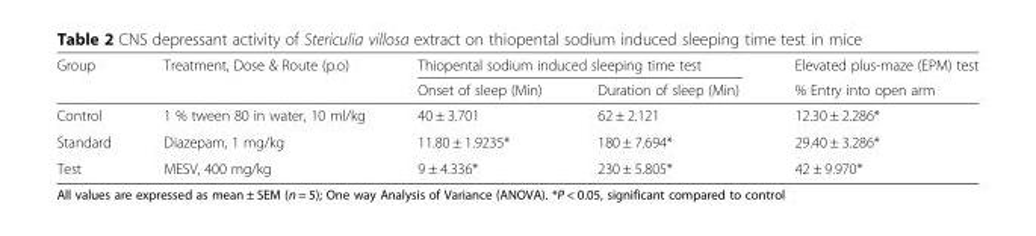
<table><thead><tr><td rowspan="2">Group</td><td rowspan="2">Treatment, Dose &amp; Route (p.o)</td><td colspan="2">Thiopental sodium induced sleeping time test</td><td rowspan="2">Elevated plus-maze (EPM) test % Entry into open arm</td></tr><tr><td>Onset of sleep (Min)</td><td>Duration of sleep (Min)</td></tr></thead><tbody><tr><td>Control</td><td>1 % tween 80 in water, 10 ml/kg</td><td>40 ± 3.701</td><td>62 ± 2.121</td><td>12.30 ± 2.286*</td></tr><tr><td>Standard</td><td>Diazepam, 1 mg/kg</td><td>11.80 ± 1.9235*</td><td>180 ± 7.694*</td><td>29.40 ± 3.286*</td></tr><tr><td>Test</td><td>MESV, 400 mg/kg</td><td>9 ± 4.336*</td><td>230 ± 5.805*</td><td>42 ± 9.970*</td></tr></tbody></table>